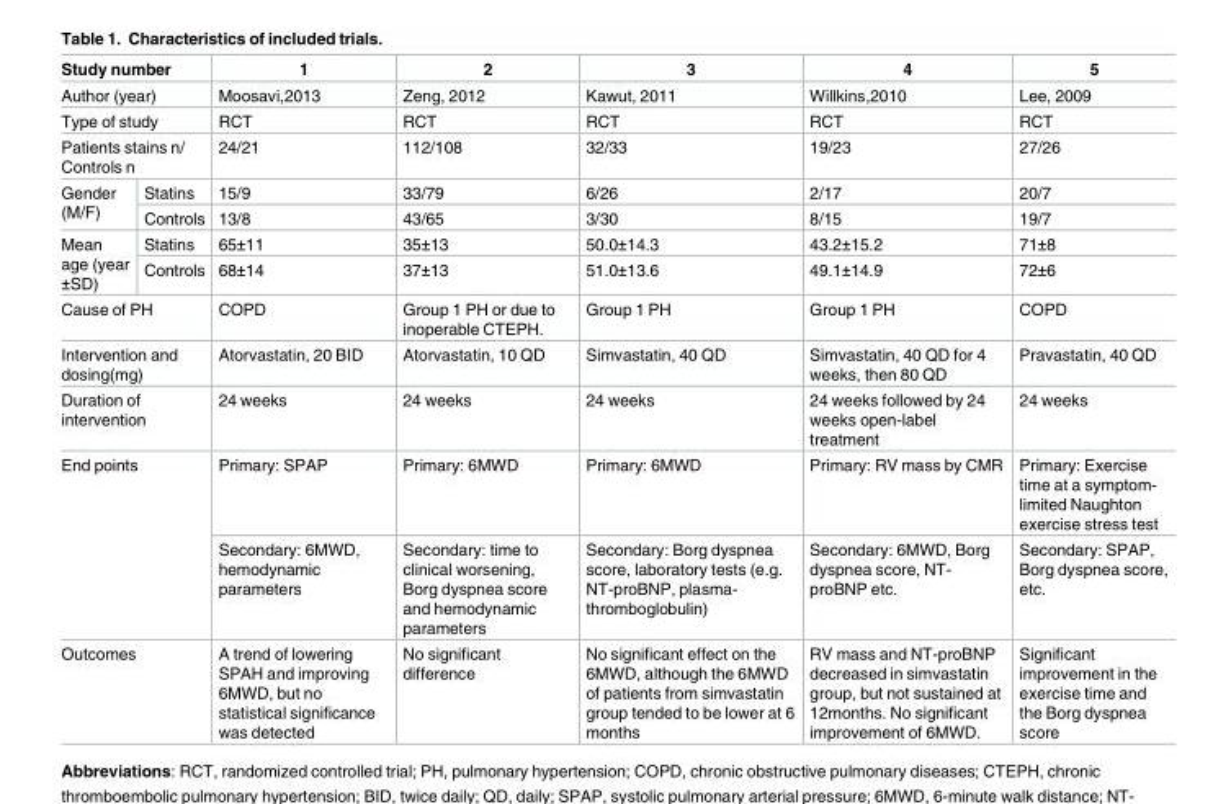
<table><thead><tr><td colspan="2">Study number</td><td>1</td><td>2</td><td>3</td><td>4</td><td>5</td></tr></thead><tbody><tr><td colspan="2">Author (year)</td><td>Moosavi,2013</td><td>Zeng, 2012</td><td>Kawut, 2011</td><td>Willkins,2010</td><td>Lee, 2009</td></tr><tr><td colspan="2">Type of study</td><td>RCT</td><td>RCT</td><td>RCT</td><td>RCT</td><td>RCT</td></tr><tr><td colspan="2">Patients stains n/ Controls n</td><td>24/21</td><td>112/108</td><td>32/33</td><td>19/23</td><td>27/26</td></tr><tr><td rowspan="2">Gender (M/F)</td><td>Statins</td><td>15/9</td><td>33/79</td><td>6/26</td><td>2/17</td><td>20/7</td></tr><tr><td>Controls</td><td>13/8</td><td>43/65</td><td>3/30</td><td>8/15</td><td>19/7</td></tr><tr><td rowspan="2">Mean age (year ±SD)</td><td>Statins</td><td>65±11</td><td>35±13</td><td>50.0±14.3</td><td>43.2±15.2</td><td>71±8</td></tr><tr><td>Controls</td><td>68±14</td><td>37±13</td><td>51.0±13.6</td><td>49.1±14.9</td><td>72±6</td></tr><tr><td colspan="2">Cause of PH</td><td>COPD</td><td>Group 1 PH or due to inoperable CTEPH.</td><td>Group 1 PH</td><td>Group 1 PH</td><td>COPD</td></tr><tr><td colspan="2">Intervention and dosing(mg)</td><td>Atorvastatin, 20 BID</td><td>Atorvastatin, 10 QD</td><td>Simvastatin, 40 QD</td><td>Simvastatin, 40 QD for 4 weeks, then 80 QD</td><td>Pravastatin, 40 QD</td></tr><tr><td colspan="2">Duration of intervention</td><td>24 weeks</td><td>24 weeks</td><td>24 weeks</td><td>24 weeks followed by 24 weeks open-label treatment</td><td>24 weeks</td></tr><tr><td rowspan="2" colspan="2">End points</td><td>Primary: SPAP</td><td>Primary: 6MWD</td><td>Primary: 6MWD</td><td>Primary: RV mass by CMR</td><td>Primary: Exercise time at a symptom- limited Naughton exercise stress test</td></tr><tr><td>Secondary: 6MWD, hemodynamic parameters</td><td>Secondary: time to clinical worsening, Borg dyspnea score and hemodynamic parameters</td><td>Secondary: Borg dyspnea score, laboratory tests (e.g. NT-proBNP, plasma- thromboglobulin)</td><td>Secondary: 6MWD, Borg dyspnea score, NT- proBNP etc.</td><td>Secondary: SPAP, Borg dyspnea score, etc.</td></tr><tr><td colspan="2">Outcomes</td><td>A trend of lowering SPAH and improving 6MWD, but no statistical significance was detected</td><td>No significant difference</td><td>No significant effect on the 6MWD, although the 6MWD of patients from simvastatin group tended to be lower at 6 months</td><td>RV mass and NT-proBNP decreased in simvastatin group, but not sustained at 12months. No significant improvement of 6MWD.</td><td>Significant improvement in the exercise time and the Borg dyspnea score</td></tr></tbody></table>